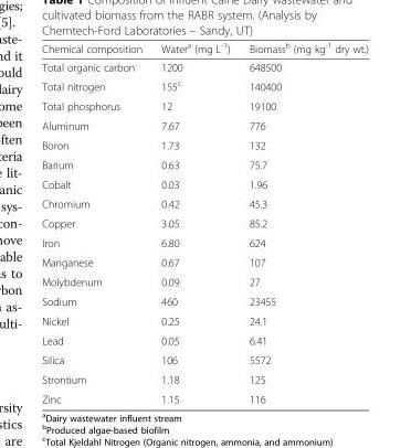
<table><thead><tr><td>Chemical composition</td><td>Water<sup>a</sup> (mg L<sup>-1</sup>)</td><td>Biomass<sup>b</sup> (mg kg<sup>-1</sup> dry wt.)</td></tr></thead><tbody><tr><td>Total organic carbon</td><td>1200</td><td>648500</td></tr><tr><td>Total nitrogen</td><td>155<sup>c</sup></td><td>140400</td></tr><tr><td>Total phosphorus</td><td>12</td><td>19100</td></tr><tr><td>Aluminum</td><td>7.67</td><td>776</td></tr><tr><td>Boron</td><td>1.73</td><td>132</td></tr><tr><td>Barium</td><td>0.63</td><td>75.7</td></tr><tr><td>Cobalt</td><td>0.03</td><td>1.96</td></tr><tr><td>Chromium</td><td>0.42</td><td>45.3</td></tr><tr><td>Copper</td><td>3.05</td><td>85.2</td></tr><tr><td>Iron</td><td>6.80</td><td>624</td></tr><tr><td>Manganese</td><td>0.67</td><td>107</td></tr><tr><td>Molybdenum</td><td>0.09</td><td>27</td></tr><tr><td>Sodium</td><td>460</td><td>23455</td></tr><tr><td>Nickel</td><td>0.25</td><td>24.1</td></tr><tr><td>Lead</td><td>0.05</td><td>6.41</td></tr><tr><td>Silica</td><td>106</td><td>5572</td></tr><tr><td>Strontium</td><td>1.18</td><td>125</td></tr><tr><td>Zinc</td><td>1.15</td><td>116</td></tr></tbody></table>